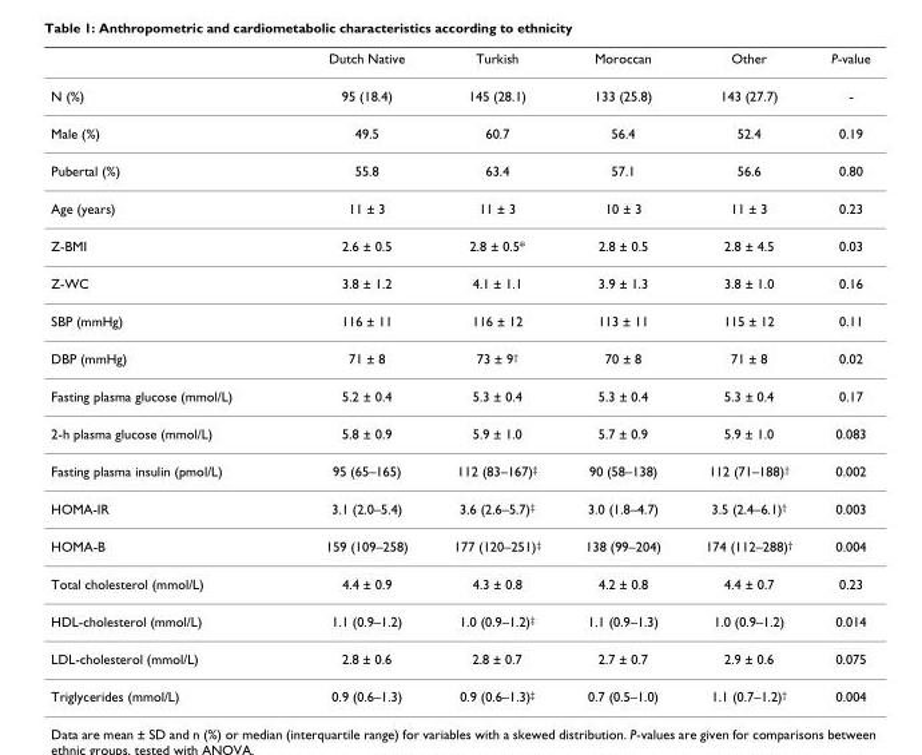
<table><thead><tr><td></td><td>Dutch Native</td><td>Turkish</td><td>Moroccan</td><td>Other</td><td>P-value</td></tr></thead><tbody><tr><td>N (%)</td><td>95 (18.4)</td><td>145 (28.1)</td><td>133 (25.8)</td><td>143 (27.7)</td><td>-</td></tr><tr><td>Male (%)</td><td>49.5</td><td>60.7</td><td>56.4</td><td>52.4</td><td>0.19</td></tr><tr><td>Pubertal (%)</td><td>55.8</td><td>63.4</td><td>57.1</td><td>56.6</td><td>0.80</td></tr><tr><td>Age (years)</td><td>11 ± 3</td><td>11 ± 3</td><td>10 ± 3</td><td>11 ± 3</td><td>0.23</td></tr><tr><td>Z-BMI</td><td>2.6 ± 0.5</td><td>2.8 ± 0.5*</td><td>2.8 ± 0.5</td><td>2.8 ± 4.5</td><td>0.03</td></tr><tr><td>Z-WC</td><td>3.8 ± 1.2</td><td>4.1 ± 1.1</td><td>3.9 ± 1.3</td><td>3.8 ± 1.0</td><td>0.16</td></tr><tr><td>SBP (mmHg)</td><td>116 ± 11</td><td>116 ± 12</td><td>113 ± 11</td><td>115 ± 12</td><td>0.11</td></tr><tr><td>DBP (mmHg)</td><td>71 ± 8</td><td>73 ± 9<sup>†</sup></td><td>70 ± 8</td><td>71 ± 8</td><td>0.02</td></tr><tr><td>Fasting plasma glucose (mmol/L)</td><td>5.2 ± 0.4</td><td>5.3 ± 0.4</td><td>5.3 ± 0.4</td><td>5.3 ± 0.4</td><td>0.17</td></tr><tr><td>2-h plasma glucose (mmol/L)</td><td>5.8 ± 0.9</td><td>5.9 ± 1.0</td><td>5.7 ± 0.9</td><td>5.9 ± 1.0</td><td>0.083</td></tr><tr><td>Fasting plasma insulin (pmol/L)</td><td>95 (65–165)</td><td>112 (83–167)<sup>‡</sup></td><td>90 (58–138)</td><td>112 (71–188)<sup>†</sup></td><td>0.002</td></tr><tr><td>HOMA-IR</td><td>3.1 (2.0–5.4)</td><td>3.6 (2.6–5.7)<sup>‡</sup></td><td>3.0 (1.8–4.7)</td><td>3.5 (2.4–6.1)<sup>†</sup></td><td>0.003</td></tr><tr><td>HOMA-B</td><td>159 (109–258)</td><td>177 (120–251)<sup>‡</sup></td><td>138 (99–204)</td><td>174 (112–288)<sup>†</sup></td><td>0.004</td></tr><tr><td>Total cholesterol (mmol/L)</td><td>4.4 ± 0.9</td><td>4.3 ± 0.8</td><td>4.2 ± 0.8</td><td>4.4 ± 0.7</td><td>0.23</td></tr><tr><td>HDL-cholesterol (mmol/L)</td><td>1.1 (0.9–1.2)</td><td>1.0 (0.9–1.2)<sup>‡</sup></td><td>1.1 (0.9–1.3)</td><td>1.0 (0.9–1.2)</td><td>0.014</td></tr><tr><td>LDL-cholesterol (mmol/L)</td><td>2.8 ± 0.6</td><td>2.8 ± 0.7</td><td>2.7 ± 0.7</td><td>2.9 ± 0.6</td><td>0.075</td></tr><tr><td>Triglycerides (mmol/L)</td><td>0.9 (0.6–1.3)</td><td>0.9 (0.6–1.3)<sup>‡</sup></td><td>0.7 (0.5–1.0)</td><td>1.1 (0.7–1.2)<sup>†</sup></td><td>0.004</td></tr></tbody></table>